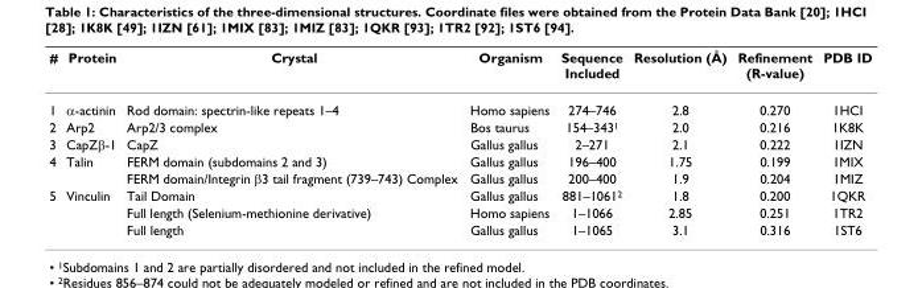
<table><thead><tr><td>#</td><td>Protein</td><td>Crystal</td><td>Organism</td><td>Sequence Included</td><td>Resolution (Å)</td><td>Refinement (R-value)</td><td>PDB ID</td></tr></thead><tbody><tr><td>1</td><td>α-actinin</td><td>Rod domain: spectrin-like repeats 1–4</td><td>Homo sapiens</td><td>274–746</td><td>2.8</td><td>0.270</td><td>1HCI</td></tr><tr><td>2</td><td>Arp2</td><td>Arp2/3 complex</td><td>Bos taurus</td><td>154–343<sup>1</sup></td><td>2.0</td><td>0.216</td><td>1K8K</td></tr><tr><td>3</td><td>CapZβ-1</td><td>CapZ</td><td>Gallus gallus</td><td>2–271</td><td>2.1</td><td>0.222</td><td>1IZN</td></tr><tr><td rowspan="2">4</td><td>Talin</td><td>FERM domain (subdomains 2 and 3)</td><td>Gallus gallus</td><td>196–400</td><td>1.75</td><td>0.199</td><td>1MIX</td></tr><tr><td></td><td>FERM domain/Integrin β3 tail fragment (739–743) Complex</td><td>Gallus gallus</td><td>200–400</td><td>1.9</td><td>0.204</td><td>1MIZ</td></tr><tr><td rowspan="3">5</td><td>Vinculin</td><td>Tail Domain</td><td>Gallus gallus</td><td>881–1061<sup>2</sup></td><td>1.8</td><td>0.200</td><td>1QKR</td></tr><tr><td></td><td>Full length (Selenium-methionine derivative)</td><td>Homo sapiens</td><td>1–1066</td><td>2.85</td><td>0.251</td><td>1TR2</td></tr><tr><td></td><td>Full length</td><td>Gallus gallus</td><td>1–1065</td><td>3.1</td><td>0.316</td><td>1ST6</td></tr></tbody></table>